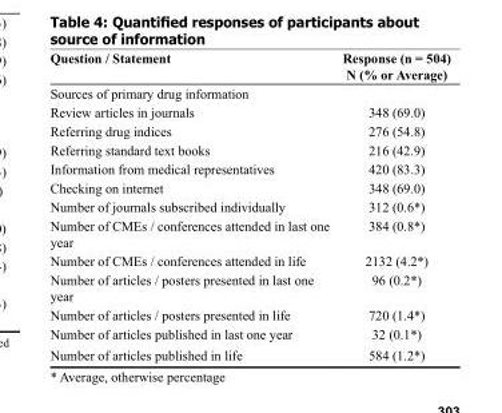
<table><thead><tr><td>Question / Statement</td><td>Response (n = 504) N (% or Average)</td></tr></thead><tbody><tr><td colspan="2">Sources of primary drug information</td></tr><tr><td>Review articles in journals</td><td>348 (69.0)</td></tr><tr><td>Referring drug indices</td><td>276 (54.8)</td></tr><tr><td>Referring standard text books</td><td>216 (42.9)</td></tr><tr><td>Information from medical representatives</td><td>420 (83.3)</td></tr><tr><td>Checking on internet</td><td>348 (69.0)</td></tr><tr><td>Number of journals subscribed individually</td><td>312 (0.6*)</td></tr><tr><td>Number of CMEs / conferences attended in last one year</td><td>384 (0.8*)</td></tr><tr><td>Number of CMEs / conferences attended in life</td><td>2132 (4.2*)</td></tr><tr><td>Number of articles / posters presented in last one year</td><td>96 (0.2*)</td></tr><tr><td>Number of articles / posters presented in life</td><td>720 (1.4*)</td></tr><tr><td>Number of articles published in last one year</td><td>32 (0.1*)</td></tr><tr><td>Number of articles published in life</td><td>584 (1.2*)</td></tr></tbody></table>